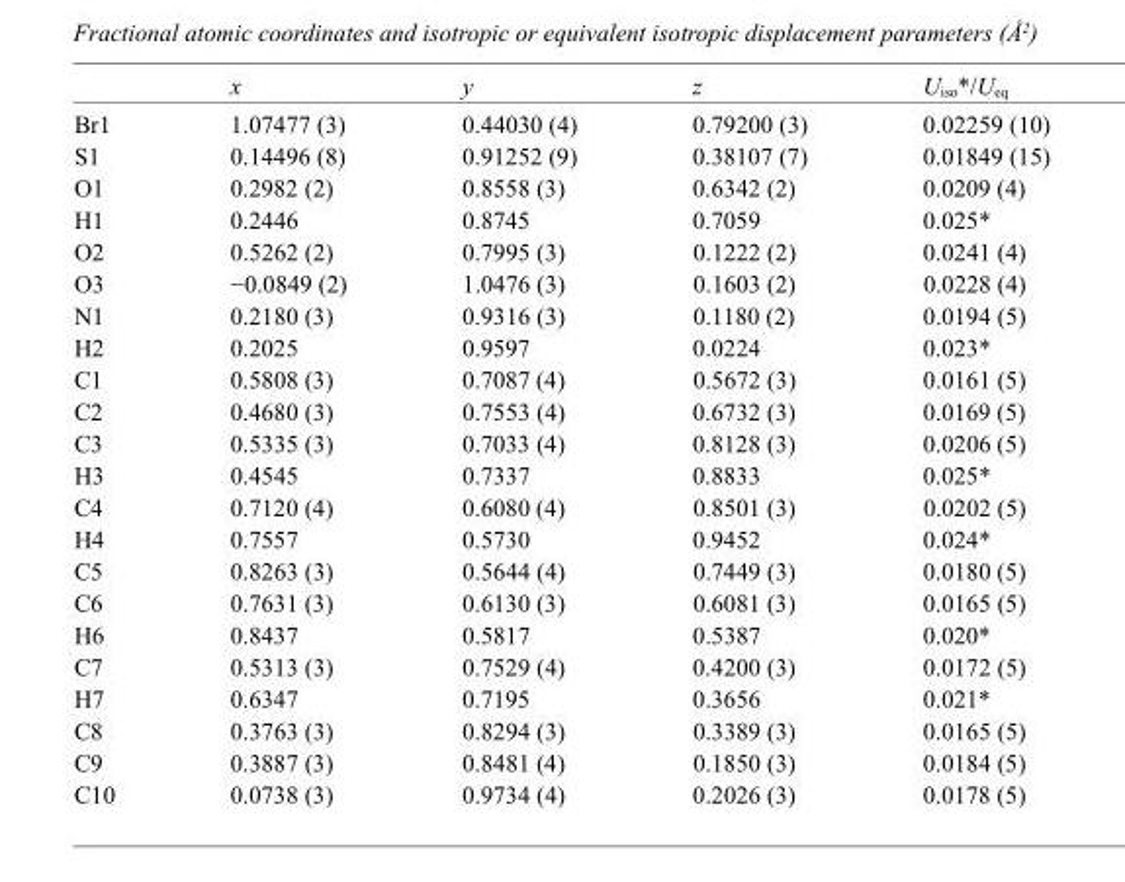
<table><thead><tr><td></td><td>x</td><td>y</td><td>z</td><td>U<sub>iso</sub>*/U<sub>eq</sub></td></tr></thead><tbody><tr><td>Br1</td><td>1.07477 (3)</td><td>0.44030 (4)</td><td>0.79200 (3)</td><td>0.02259 (10)</td></tr><tr><td>S1</td><td>0.14496 (8)</td><td>0.91252 (9)</td><td>0.38107 (7)</td><td>0.01849 (15)</td></tr><tr><td>O1</td><td>0.2982 (2)</td><td>0.8558 (3)</td><td>0.6342 (2)</td><td>0.0209 (4)</td></tr><tr><td>H1</td><td>0.2446</td><td>0.8745</td><td>0.7059</td><td>0.025*</td></tr><tr><td>O2</td><td>0.5262 (2)</td><td>0.7995 (3)</td><td>0.1222 (2)</td><td>0.0241 (4)</td></tr><tr><td>O3</td><td>−0.0849 (2)</td><td>1.0476 (3)</td><td>0.1603 (2)</td><td>0.0228 (4)</td></tr><tr><td>N1</td><td>0.2180 (3)</td><td>0.9316 (3)</td><td>0.1180 (2)</td><td>0.0194 (5)</td></tr><tr><td>H2</td><td>0.2025</td><td>0.9597</td><td>0.0224</td><td>0.023*</td></tr><tr><td>C1</td><td>0.5808 (3)</td><td>0.7087 (4)</td><td>0.5672 (3)</td><td>0.0161 (5)</td></tr><tr><td>C2</td><td>0.4680 (3)</td><td>0.7553 (4)</td><td>0.6732 (3)</td><td>0.0169 (5)</td></tr><tr><td>C3</td><td>0.5335 (3)</td><td>0.7033 (4)</td><td>0.8128 (3)</td><td>0.0206 (5)</td></tr><tr><td>H3</td><td>0.4545</td><td>0.7337</td><td>0.8833</td><td>0.025*</td></tr><tr><td>C4</td><td>0.7120 (4)</td><td>0.6080 (4)</td><td>0.8501 (3)</td><td>0.0202 (5)</td></tr><tr><td>H4</td><td>0.7557</td><td>0.5730</td><td>0.9452</td><td>0.024*</td></tr><tr><td>C5</td><td>0.8263 (3)</td><td>0.5644 (4)</td><td>0.7449 (3)</td><td>0.0180 (5)</td></tr><tr><td>C6</td><td>0.7631 (3)</td><td>0.6130 (3)</td><td>0.6081 (3)</td><td>0.0165 (5)</td></tr><tr><td>H6</td><td>0.8437</td><td>0.5817</td><td>0.5387</td><td>0.020*</td></tr><tr><td>C7</td><td>0.5313 (3)</td><td>0.7529 (4)</td><td>0.4200 (3)</td><td>0.0172 (5)</td></tr><tr><td>H7</td><td>0.6347</td><td>0.7195</td><td>0.3656</td><td>0.021*</td></tr><tr><td>C8</td><td>0.3763 (3)</td><td>0.8294 (3)</td><td>0.3389 (3)</td><td>0.0165 (5)</td></tr><tr><td>C9</td><td>0.3887 (3)</td><td>0.8481 (4)</td><td>0.1850 (3)</td><td>0.0184 (5)</td></tr><tr><td>C10</td><td>0.0738 (3)</td><td>0.9734 (4)</td><td>0.2026 (3)</td><td>0.0178 (5)</td></tr></tbody></table>